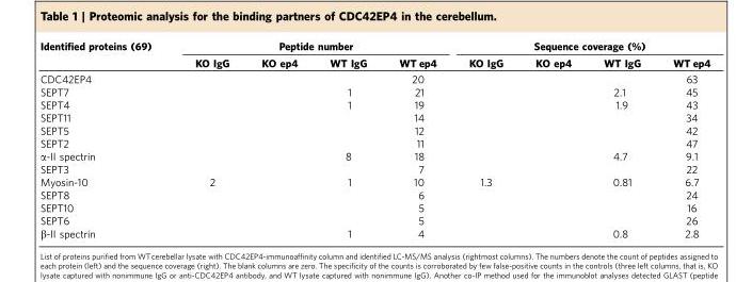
<table><thead><tr><td rowspan="2">Identified proteins (69)</td><td colspan="4">Peptide number</td><td colspan="4">Sequence coverage (%)</td></tr><tr><td>KO IgG</td><td>KO ep4</td><td>WT IgG</td><td>WT ep4</td><td>KO IgG</td><td>KO ep4</td><td>WT IgG</td><td>WT ep4</td></tr></thead><tbody><tr><td>CDC42EP4</td><td></td><td></td><td></td><td>20</td><td></td><td></td><td></td><td>63</td></tr><tr><td>SEPT7</td><td></td><td></td><td>1</td><td>21</td><td></td><td></td><td>2.1</td><td>45</td></tr><tr><td>SEPT4</td><td></td><td></td><td>1</td><td>19</td><td></td><td></td><td>1.9</td><td>43</td></tr><tr><td>SEPT11</td><td></td><td></td><td></td><td>14</td><td></td><td></td><td></td><td>34</td></tr><tr><td>SEPT5</td><td></td><td></td><td></td><td>12</td><td></td><td></td><td></td><td>42</td></tr><tr><td>SEPT2</td><td></td><td></td><td></td><td>11</td><td></td><td></td><td></td><td>47</td></tr><tr><td>α-II spectrin</td><td></td><td></td><td>8</td><td>18</td><td></td><td></td><td>4.7</td><td>9.1</td></tr><tr><td>SEPT3</td><td></td><td></td><td></td><td>7</td><td></td><td></td><td></td><td>22</td></tr><tr><td>Myosin-10</td><td>2</td><td></td><td>1</td><td>10</td><td>1.3</td><td></td><td>0.81</td><td>6.7</td></tr><tr><td>SEPT8</td><td></td><td></td><td></td><td>6</td><td></td><td></td><td></td><td>24</td></tr><tr><td>SEPT10</td><td></td><td></td><td></td><td>5</td><td></td><td></td><td></td><td>16</td></tr><tr><td>SEPT6</td><td></td><td></td><td></td><td>5</td><td></td><td></td><td></td><td>26</td></tr><tr><td>β-II spectrin</td><td></td><td></td><td>1</td><td>4</td><td></td><td></td><td>0.8</td><td>2.8</td></tr></tbody></table>